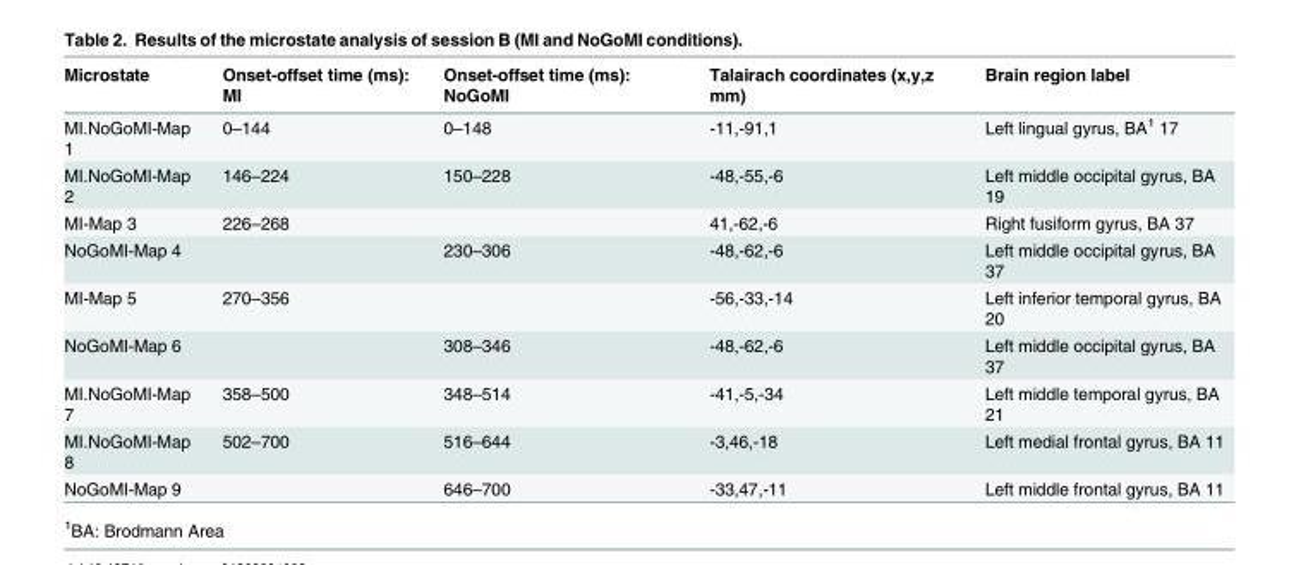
<table><thead><tr><td>Microstate</td><td>Onset-offset time (ms): MI</td><td>Onset-offset time (ms): NoGoMI</td><td>Talairach coordinates (x,y,z mm)</td><td>Brain region label</td></tr></thead><tbody><tr><td>MI.NoGoMI-Map 1</td><td>0–144</td><td>0–148</td><td>-11,-91,1</td><td>Left lingual gyrus, BA<sup>1</sup> 17</td></tr><tr><td>MI.NoGoMI-Map 2</td><td>146–224</td><td>150–228</td><td>-48,-55,-6</td><td>Left middle occipital gyrus, BA 19</td></tr><tr><td>MI-Map 3</td><td>226–268</td><td></td><td>41,-62,-6</td><td>Right fusiform gyrus, BA 37</td></tr><tr><td>NoGoMI-Map 4</td><td></td><td>230–306</td><td>-48,-62,-6</td><td>Left middle occipital gyrus, BA 37</td></tr><tr><td>MI-Map 5</td><td>270–356</td><td></td><td>-56,-33,-14</td><td>Left inferior temporal gyrus, BA 20</td></tr><tr><td>NoGoMI-Map 6</td><td></td><td>308–346</td><td>-48,-62,-6</td><td>Left middle occipital gyrus, BA 37</td></tr><tr><td>MI.NoGoMI-Map 7</td><td>358–500</td><td>348–514</td><td>-41,-5,-34</td><td>Left middle temporal gyrus, BA 21</td></tr><tr><td>MI.NoGoMI-Map 8</td><td>502–700</td><td>516–644</td><td>-3,46,-18</td><td>Left medial frontal gyrus, BA 11</td></tr><tr><td>NoGoMI-Map 9</td><td></td><td>646–700</td><td>-33,47,-11</td><td>Left middle frontal gyrus, BA 11</td></tr></tbody></table>